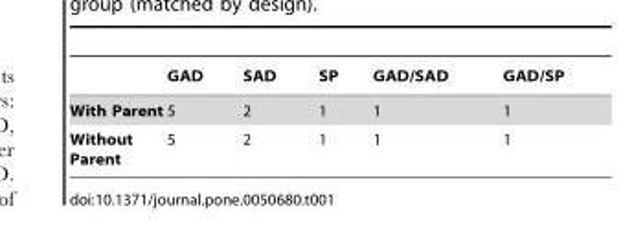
<table><thead><tr><td></td><td>GAD</td><td>SAD</td><td>SP</td><td>GAD/SAD</td><td>GAD/SP</td></tr></thead><tbody><tr><td>With Parent</td><td>5</td><td>2</td><td>1</td><td>1</td><td>1</td></tr><tr><td>Without Parent</td><td>5</td><td>2</td><td>1</td><td>1</td><td>1</td></tr></tbody></table>